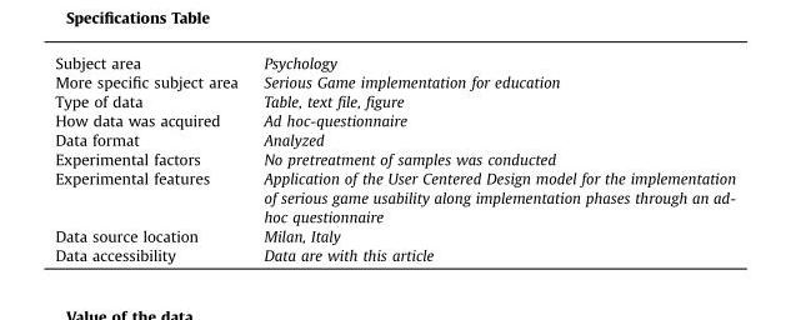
<table><tbody><tr><td>Subject area</td><td>Psychology</td></tr><tr><td>More specific subject area</td><td>Serious Game implementation for education</td></tr><tr><td>Type of data</td><td>Table, text file, figure</td></tr><tr><td>How data was acquired</td><td>Ad hoc-questionnaire</td></tr><tr><td>Data format</td><td>Analyzed</td></tr><tr><td>Experimental factors</td><td>No pretreatment of samples was conducted</td></tr><tr><td>Experimental features</td><td>Application of the User Centered Design model for the implementation of serious game usability along implementation phases through an ad- hoc questionnaire</td></tr><tr><td>Data source location</td><td>Milan, Italy</td></tr><tr><td>Data accessibility</td><td>Data are with this article</td></tr></tbody></table>